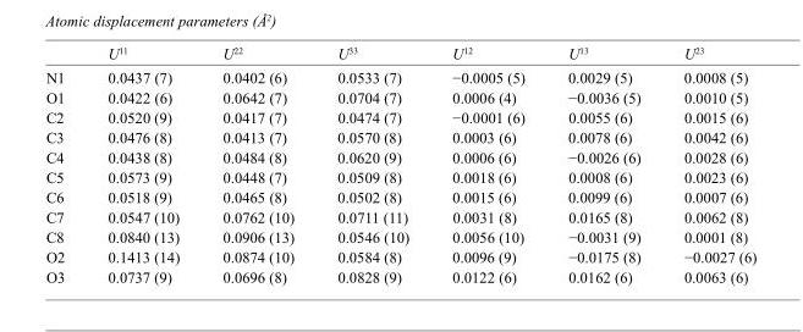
<table><thead><tr><td></td><td>U<sup>11</sup></td><td>U<sup>22</sup></td><td>U<sup>33</sup></td><td>U<sup>12</sup></td><td>U<sup>13</sup></td><td>U<sup>23</sup></td></tr></thead><tbody><tr><td>N1</td><td>0.0437 (7)</td><td>0.0402 (6)</td><td>0.0533 (7)</td><td>−0.0005 (5)</td><td>0.0029 (5)</td><td>0.0008 (5)</td></tr><tr><td>O1</td><td>0.0422 (6)</td><td>0.0642 (7)</td><td>0.0704 (7)</td><td>0.0006 (4)</td><td>−0.0036 (5)</td><td>0.0010 (5)</td></tr><tr><td>C2</td><td>0.0520 (9)</td><td>0.0417 (7)</td><td>0.0474 (7)</td><td>−0.0001 (6)</td><td>0.0055 (6)</td><td>0.0015 (6)</td></tr><tr><td>C3</td><td>0.0476 (8)</td><td>0.0413 (7)</td><td>0.0570 (8)</td><td>0.0003 (6)</td><td>0.0078 (6)</td><td>0.0042 (6)</td></tr><tr><td>C4</td><td>0.0438 (8)</td><td>0.0484 (8)</td><td>0.0620 (9)</td><td>0.0006 (6)</td><td>−0.0026 (6)</td><td>0.0028 (6)</td></tr><tr><td>C5</td><td>0.0573 (9)</td><td>0.0448 (7)</td><td>0.0509 (8)</td><td>0.0018 (6)</td><td>0.0008 (6)</td><td>0.0023 (6)</td></tr><tr><td>C6</td><td>0.0518 (9)</td><td>0.0465 (8)</td><td>0.0502 (8)</td><td>0.0015 (6)</td><td>0.0099 (6)</td><td>0.0007 (6)</td></tr><tr><td>C7</td><td>0.0547 (10)</td><td>0.0762 (10)</td><td>0.0711 (11)</td><td>0.0031 (8)</td><td>0.0165 (8)</td><td>0.0062 (8)</td></tr><tr><td>C8</td><td>0.0840 (13)</td><td>0.0906 (13)</td><td>0.0546 (10)</td><td>0.0056 (10)</td><td>−0.0031 (9)</td><td>0.0001 (8)</td></tr><tr><td>O2</td><td>0.1413 (14)</td><td>0.0874 (10)</td><td>0.0584 (8)</td><td>0.0096 (9)</td><td>−0.0175 (8)</td><td>−0.0027 (6)</td></tr><tr><td>O3</td><td>0.0737 (9)</td><td>0.0696 (8)</td><td>0.0828 (9)</td><td>0.0122 (6)</td><td>0.0162 (6)</td><td>0.0063 (6)</td></tr></tbody></table>